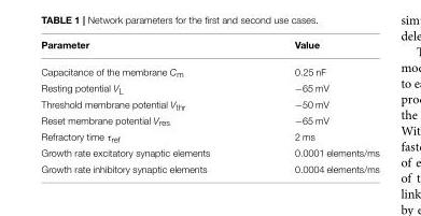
<table><thead><tr><td>Parameter</td><td>Value</td></tr></thead><tbody><tr><td>Capacitance of the membrane C<sub>m</sub></td><td>0.25 nF</td></tr><tr><td>Resting potential V<sub>L</sub></td><td>−65 mV</td></tr><tr><td>Threshold membrane potential V<sub>thr</sub></td><td>−50 mV</td></tr><tr><td>Reset membrane potential V<sub>res</sub></td><td>−65 mV</td></tr><tr><td>Refractory time τ<sub>ref</sub></td><td>2 ms</td></tr><tr><td>Growth rate excitatory synaptic elements</td><td>0.0001 elements/ms</td></tr><tr><td>Growth rate inhibitory synaptic elements</td><td>0.0004 elements/ms</td></tr></tbody></table>